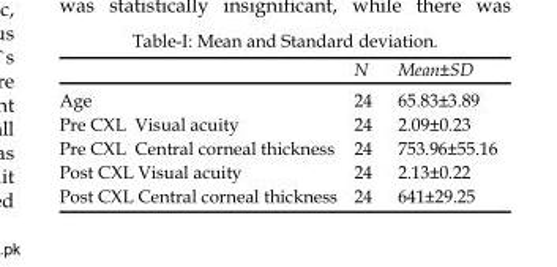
<table><thead><tr><td></td><td>N</td><td>Mean±SD</td></tr></thead><tbody><tr><td>Age</td><td>24</td><td>65.83±3.89</td></tr><tr><td>Pre CXL Visual acuity</td><td>24</td><td>2.09±0.23</td></tr><tr><td>Pre CXL Central corneal thickness</td><td>24</td><td>753.96±55.16</td></tr><tr><td>Post CXL Visual acuity</td><td>24</td><td>2.13±0.22</td></tr><tr><td>Post CXL Central corneal thickness</td><td>24</td><td>641±29.25</td></tr></tbody></table>